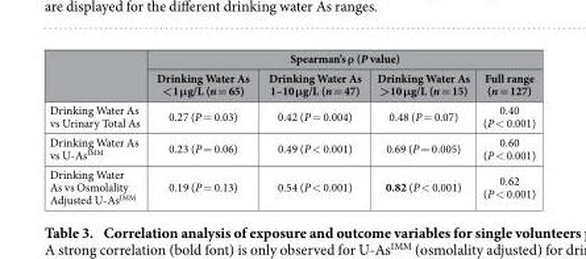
<table><thead><tr><td rowspan="2"></td><td colspan="4">Spearman’s ρ (P value)</td></tr><tr><td>Drinking Water As &lt;1 μg/L (n = 65)</td><td>Drinking Water As 1–10 μg/L (n = 47)</td><td>Drinking Water As &gt;10 μg/L (n = 15)</td><td>Full range (n = 127)</td></tr></thead><tbody><tr><td>Drinking Water As vs Urinary Total As</td><td>0.27 (P = 0.03)</td><td>0.42 (P = 0.004)</td><td>0.48 (P = 0.07)</td><td>0.40 (P &lt; 0.001)</td></tr><tr><td>Drinking Water As vs U-As<sup>IMM</sup></td><td>0.23 (P = 0.06)</td><td>0.49 (P &lt; 0.001)</td><td>0.69 (P = 0.005)</td><td>0.60 (P &lt; 0.001)</td></tr><tr><td>Drinking Water As vs Osmolality Adjusted U-As<sup>IMM</sup></td><td>0.19 (P = 0.13)</td><td>0.54 (P &lt; 0.001)</td><td>0.82 (P &lt; 0.001)</td><td>0.62 (P &lt; 0.001)</td></tr></tbody></table>